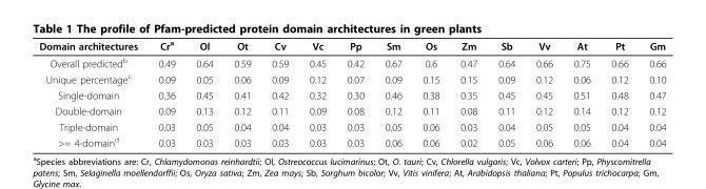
<table><thead><tr><td>Domain architectures</td><td>Cr<sup>a</sup></td><td>Ol</td><td>Ot</td><td>Cv</td><td>Vc</td><td>Pp</td><td>Sm</td><td>Os</td><td>Zm</td><td>Sb</td><td>Vv</td><td>At</td><td>Pt</td><td>Gm</td></tr></thead><tbody><tr><td>Overall predicted<sup>b</sup></td><td>0.49</td><td>0.64</td><td>0.59</td><td>0.59</td><td>0.45</td><td>0.42</td><td>0.67</td><td>0.6</td><td>0.47</td><td>0.64</td><td>0.66</td><td>0.75</td><td>0.66</td><td>0.66</td></tr><tr><td>Unique percentage<sup>c</sup></td><td>0.09</td><td>0.05</td><td>0.06</td><td>0.09</td><td>0.12</td><td>0.07</td><td>0.09</td><td>0.15</td><td>0.15</td><td>0.09</td><td>0.12</td><td>0.06</td><td>0.12</td><td>0.10</td></tr><tr><td>Single-domain</td><td>0.36</td><td>0.45</td><td>0.41</td><td>0.42</td><td>0.32</td><td>0.30</td><td>0.46</td><td>0.38</td><td>0.35</td><td>0.45</td><td>0.45</td><td>0.51</td><td>0.48</td><td>0.47</td></tr><tr><td>Double-domain</td><td>0.09</td><td>0.13</td><td>0.12</td><td>0.11</td><td>0.09</td><td>0.08</td><td>0.12</td><td>0.11</td><td>0.08</td><td>0.11</td><td>0.12</td><td>0.14</td><td>0.12</td><td>0.12</td></tr><tr><td>Triple-domain</td><td>0.03</td><td>0.05</td><td>0.04</td><td>0.04</td><td>0.03</td><td>0.03</td><td>0.05</td><td>0.06</td><td>0.03</td><td>0.04</td><td>0.05</td><td>0.05</td><td>0.04</td><td>0.04</td></tr><tr><td>&gt;= 4-domain<sup>d</sup></td><td>0.03</td><td>0.03</td><td>0.03</td><td>0.03</td><td>0.03</td><td>0.03</td><td>0.06</td><td>0.06</td><td>0.02</td><td>0.05</td><td>0.06</td><td>0.06</td><td>0.04</td><td>0.04</td></tr></tbody></table>